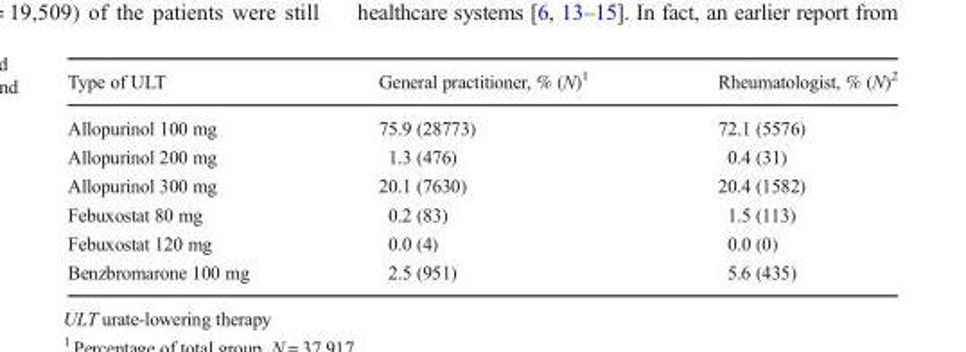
<table><thead><tr><td>Type of ULT</td><td>General practitioner, % (N)<sup>1</sup></td><td>Rheumatologist, % (N)<sup>2</sup></td></tr></thead><tbody><tr><td>Allopurinol 100 mg</td><td>75.9 (28773)</td><td>72.1 (5576)</td></tr><tr><td>Allopurinol 200 mg</td><td>1.3 (476)</td><td>0.4 (31)</td></tr><tr><td>Allopurinol 300 mg</td><td>20.1 (7630)</td><td>20.4 (1582)</td></tr><tr><td>Febuxostat 80 mg</td><td>0.2 (83)</td><td>1.5 (113)</td></tr><tr><td>Febuxostat 120 mg</td><td>0.0 (4)</td><td>0.0 (0)</td></tr><tr><td>Benzbromarone 100 mg</td><td>2.5 (951)</td><td>5.6 (435)</td></tr></tbody></table>